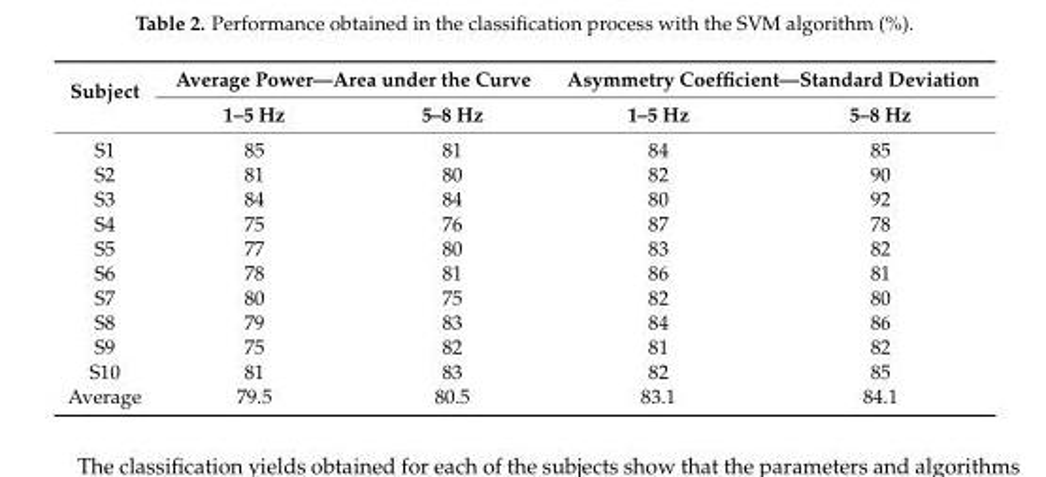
<table><thead><tr><td rowspan="2">Subject</td><td colspan="2">Average Power—Area under the Curve</td><td colspan="2">Asymmetry Coefficient—Standard Deviation</td></tr><tr><td>1–5 Hz</td><td>5–8 Hz</td><td>1–5 Hz</td><td>5–8 Hz</td></tr></thead><tbody><tr><td>S1</td><td>85</td><td>81</td><td>84</td><td>85</td></tr><tr><td>S2</td><td>81</td><td>80</td><td>82</td><td>90</td></tr><tr><td>S3</td><td>84</td><td>84</td><td>80</td><td>92</td></tr><tr><td>S4</td><td>75</td><td>76</td><td>87</td><td>78</td></tr><tr><td>S5</td><td>77</td><td>80</td><td>83</td><td>82</td></tr><tr><td>S6</td><td>78</td><td>81</td><td>86</td><td>81</td></tr><tr><td>S7</td><td>80</td><td>75</td><td>82</td><td>80</td></tr><tr><td>S8</td><td>79</td><td>83</td><td>84</td><td>86</td></tr><tr><td>S9</td><td>75</td><td>82</td><td>81</td><td>82</td></tr><tr><td>S10</td><td>81</td><td>83</td><td>82</td><td>85</td></tr><tr><td>Average</td><td>79.5</td><td>80.5</td><td>83.1</td><td>84.1</td></tr></tbody></table>